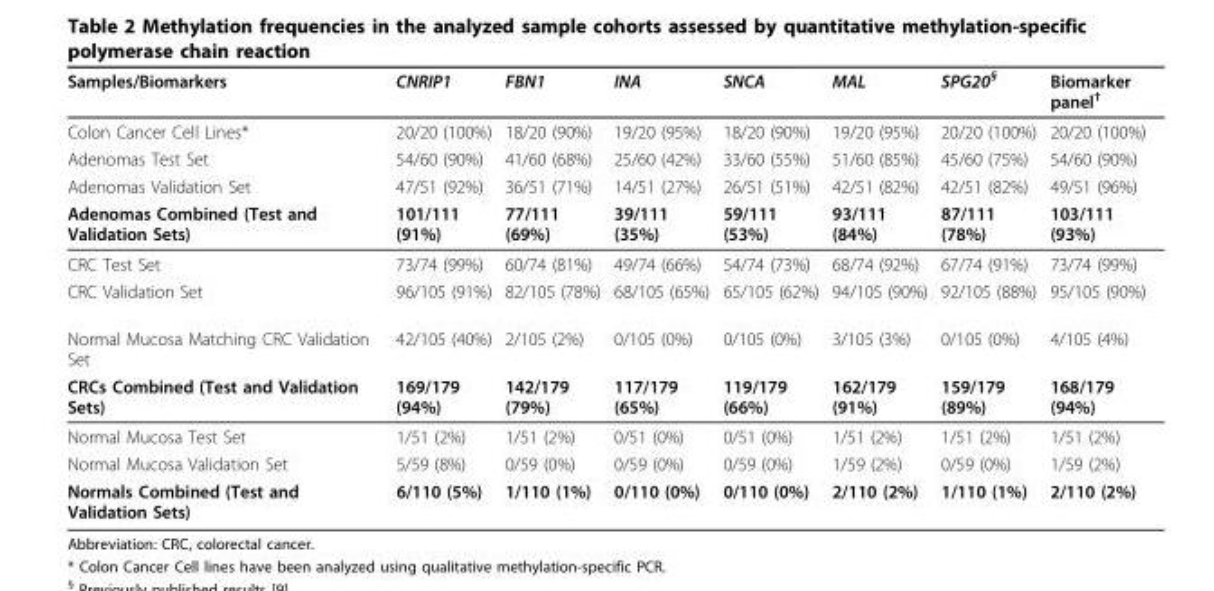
<table><thead><tr><td>Samples/Biomarkers</td><td>CNRIP1</td><td>FBN1</td><td>INA</td><td>SNCA</td><td>MAL</td><td>SPG20<sup>§</sup></td><td>Biomarker panel<sup>†</sup></td></tr></thead><tbody><tr><td>Colon Cancer Cell Lines*</td><td>20/20 (100%)</td><td>18/20 (90%)</td><td>19/20 (95%)</td><td>18/20 (90%)</td><td>19/20 (95%)</td><td>20/20 (100%)</td><td>20/20 (100%)</td></tr><tr><td>Adenomas Test Set</td><td>54/60 (90%)</td><td>41/60 (68%)</td><td>25/60 (42%)</td><td>33/60 (55%)</td><td>51/60 (85%)</td><td>45/60 (75%)</td><td>54/60 (90%)</td></tr><tr><td>Adenomas Validation Set</td><td>47/51 (92%)</td><td>36/51 (71%)</td><td>14/51 (27%)</td><td>26/51 (51%)</td><td>42/51 (82%)</td><td>42/51 (82%)</td><td>49/51 (96%)</td></tr><tr><td>Adenomas Combined (Test and Validation Sets)</td><td>101/111 (91%)</td><td>77/111 (69%)</td><td>39/111 (35%)</td><td>59/111 (53%)</td><td>93/111 (84%)</td><td>87/111 (78%)</td><td>103/111 (93%)</td></tr><tr><td>CRC Test Set</td><td>73/74 (99%)</td><td>60/74 (81%)</td><td>49/74 (66%)</td><td>54/74 (73%)</td><td>68/74 (92%)</td><td>67/74 (91%)</td><td>73/74 (99%)</td></tr><tr><td>CRC Validation Set</td><td>96/105 (91%)</td><td>82/105 (78%)</td><td>68/105 (65%)</td><td>65/105 (62%)</td><td>94/105 (90%)</td><td>92/105 (88%)</td><td>95/105 (90%)</td></tr><tr><td>Normal Mucosa Matching CRC Validation Set</td><td>42/105 (40%)</td><td>2/105 (2%)</td><td>0/105 (0%)</td><td>0/105 (0%)</td><td>3/105 (3%)</td><td>0/105 (0%)</td><td>4/105 (4%)</td></tr><tr><td>CRCs Combined (Test and Validation Sets)</td><td>169/179 (94%)</td><td>142/179 (79%)</td><td>117/179 (65%)</td><td>119/179 (66%)</td><td>162/179 (91%)</td><td>159/179 (89%)</td><td>168/179 (94%)</td></tr><tr><td>Normal Mucosa Test Set</td><td>1/51 (2%)</td><td>1/51 (2%)</td><td>0/51 (0%)</td><td>0/51 (0%)</td><td>1/51 (2%)</td><td>1/51 (2%)</td><td>1/51 (2%)</td></tr><tr><td>Normal Mucosa Validation Set</td><td>5/59 (8%)</td><td>0/59 (0%)</td><td>0/59 (0%)</td><td>0/59 (0%)</td><td>1/59 (2%)</td><td>0/59 (0%)</td><td>1/59 (2%)</td></tr><tr><td>Normals Combined (Test and Validation Sets)</td><td>6/110 (5%)</td><td>1/110 (1%)</td><td>0/110 (0%)</td><td>0/110 (0%)</td><td>2/110 (2%)</td><td>1/110 (1%)</td><td>2/110 (2%)</td></tr></tbody></table>